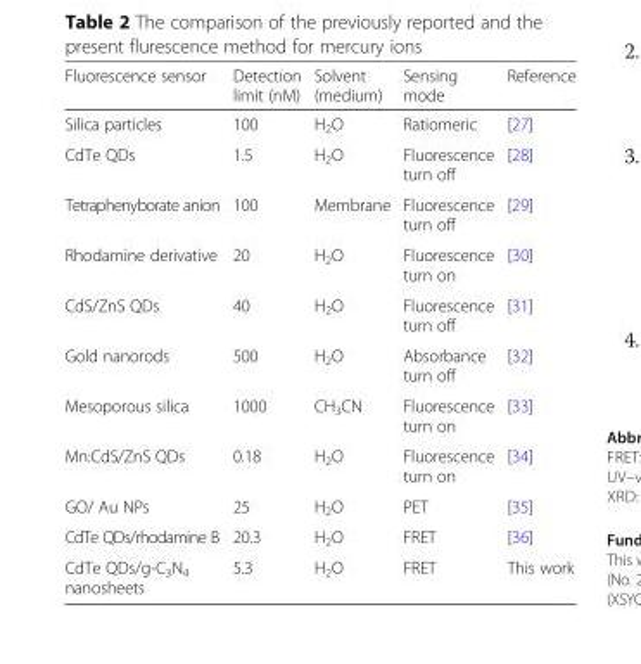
<table><thead><tr><td>Fluorescence sensor</td><td>Detection limit (nM)</td><td>Solvent (medium)</td><td>Sensing mode</td><td>Reference</td></tr></thead><tbody><tr><td>Silica particles</td><td>100</td><td>H<sub>2</sub>O</td><td>Ratiomeric</td><td>[27]</td></tr><tr><td>CdTe QDs</td><td>1.5</td><td>H<sub>2</sub>O</td><td>Fluorescence turn off</td><td>[28]</td></tr><tr><td>Tetraphenyborate anion</td><td>100</td><td>Membrane</td><td>Fluorescence turn off</td><td>[29]</td></tr><tr><td>Rhodamine derivative</td><td>20</td><td>H<sub>2</sub>O</td><td>Fluorescence turn on</td><td>[30]</td></tr><tr><td>CdS/ZnS QDs</td><td>40</td><td>H<sub>2</sub>O</td><td>Fluorescence turn off</td><td>[31]</td></tr><tr><td>Gold nanorods</td><td>500</td><td>H<sub>2</sub>O</td><td>Absorbance turn off</td><td>[32]</td></tr><tr><td>Mesoporous silica</td><td>1000</td><td>CH<sub>3</sub>CN</td><td>Fluorescence turn on</td><td>[33]</td></tr><tr><td>Mn:CdS/ZnS QDs</td><td>0.18</td><td>H<sub>2</sub>O</td><td>Fluorescence turn on</td><td>[34]</td></tr><tr><td>GO/ Au NPs</td><td>25</td><td>H<sub>2</sub>O</td><td>PET</td><td>[35]</td></tr><tr><td>CdTe QDs/rhodamine B</td><td>20.3</td><td>H<sub>2</sub>O</td><td>FRET</td><td>[36]</td></tr><tr><td>CdTe QDs/g-C<sub>3</sub>N<sub>4</sub> nanosheets</td><td>5.3</td><td>H<sub>2</sub>O</td><td>FRET</td><td>This work</td></tr></tbody></table>